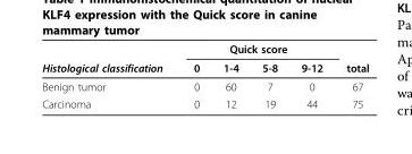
<table><thead><tr><td rowspan="2">Histological classification</td><td colspan="4">Quick score</td><td rowspan="2">total</td></tr><tr><td>0</td><td>1-4</td><td>5-8</td><td>9-12</td></tr></thead><tbody><tr><td>Benign tumor</td><td>0</td><td>60</td><td>7</td><td>0</td><td>67</td></tr><tr><td>Carcinoma</td><td>0</td><td>12</td><td>19</td><td>44</td><td>75</td></tr></tbody></table>